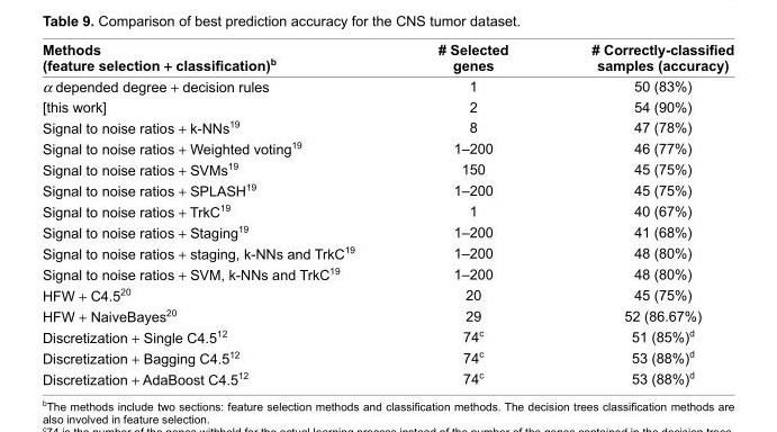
<table><thead><tr><td>Methods (feature selection + classifi cation)<sup>b</sup></td><td># Selected genes</td><td># Correctly-classifi ed samples (accuracy)</td></tr></thead><tbody><tr><td>α depended degree + decision rules</td><td>1</td><td>50 (83%)</td></tr><tr><td>[this work]</td><td>2</td><td>54 (90%)</td></tr><tr><td>Signal to noise ratios + k-NNs<sup>19</sup></td><td>8</td><td>47 (78%)</td></tr><tr><td>Signal to noise ratios + Weighted voting<sup>19</sup></td><td>1–200</td><td>46 (77%)</td></tr><tr><td>Signal to noise ratios + SVMs<sup>19</sup></td><td>150</td><td>45 (75%)</td></tr><tr><td>Signal to noise ratios + SPLASH<sup>19</sup></td><td>1–200</td><td>45 (75%)</td></tr><tr><td>Signal to noise ratios + TrkC<sup>19</sup></td><td>1</td><td>40 (67%)</td></tr><tr><td>Signal to noise ratios + Staging<sup>19</sup></td><td>1–200</td><td>41 (68%)</td></tr><tr><td>Signal to noise ratios + staging, k-NNs and TrkC<sup>19</sup></td><td>1–200</td><td>48 (80%)</td></tr><tr><td>Signal to noise ratios + SVM, k-NNs and TrkC<sup>19</sup></td><td>1–200</td><td>48 (80%)</td></tr><tr><td>HFW + C4.5<sup>20</sup></td><td>20</td><td>45 (75%)</td></tr><tr><td>HFW + NaiveBayes<sup>20</sup></td><td>29</td><td>52 (86.67%)</td></tr><tr><td>Discretization + Single C4.5<sup>12</sup></td><td>74<sup>c</sup></td><td>51 (85%)<sup>d</sup></td></tr><tr><td>Discretization + Bagging C4.5<sup>12</sup></td><td>74<sup>c</sup></td><td>53 (88%)<sup>d</sup></td></tr><tr><td>Discretization + AdaBoost C4.5<sup>12</sup></td><td>74<sup>c</sup></td><td>53 (88%)<sup>d</sup></td></tr></tbody></table>